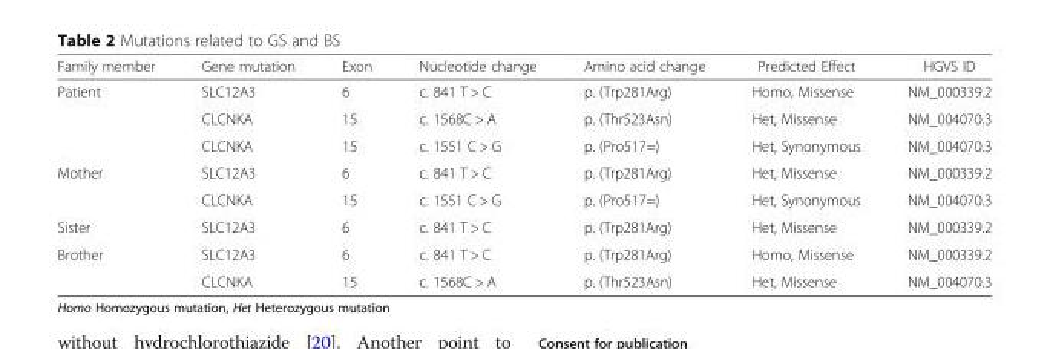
<table><thead><tr><td>Family member</td><td>Gene mutation</td><td>Exon</td><td>Nucleotide change</td><td>Amino acid change</td><td>Predicted Effect</td><td>HGVS ID</td></tr></thead><tbody><tr><td rowspan="3">Patient</td><td>SLC12A3</td><td>6</td><td>c. 841 T &gt; C</td><td>p. (Trp281Arg)</td><td>Homo, Missense</td><td>NM_000339.2</td></tr><tr><td>CLCNKA</td><td>15</td><td>c. 1568C &gt; A</td><td>p. (Thr523Asn)</td><td>Het, Missense</td><td>NM_004070.3</td></tr><tr><td>CLCNKA</td><td>15</td><td>c. 1551 C &gt; G</td><td>p. (Pro517=)</td><td>Het, Synonymous</td><td>NM_004070.3</td></tr><tr><td rowspan="2">Mother</td><td>SLC12A3</td><td>6</td><td>c. 841 T &gt; C</td><td>p. (Trp281Arg)</td><td>Het, Missense</td><td>NM_000339.2</td></tr><tr><td>CLCNKA</td><td>15</td><td>c. 1551 C &gt; G</td><td>p. (Pro517=)</td><td>Het, Synonymous</td><td>NM_004070.3</td></tr><tr><td>Sister</td><td>SLC12A3</td><td>6</td><td>c. 841 T &gt; C</td><td>p. (Trp281Arg)</td><td>Het, Missense</td><td>NM_000339.2</td></tr><tr><td rowspan="2">Brother</td><td>SLC12A3</td><td>6</td><td>c. 841 T &gt; C</td><td>p. (Trp281Arg)</td><td>Homo, Missense</td><td>NM_000339.2</td></tr><tr><td>CLCNKA</td><td>15</td><td>c. 1568C &gt; A</td><td>p. (Thr523Asn)</td><td>Het, Missense</td><td>NM_004070.3</td></tr></tbody></table>